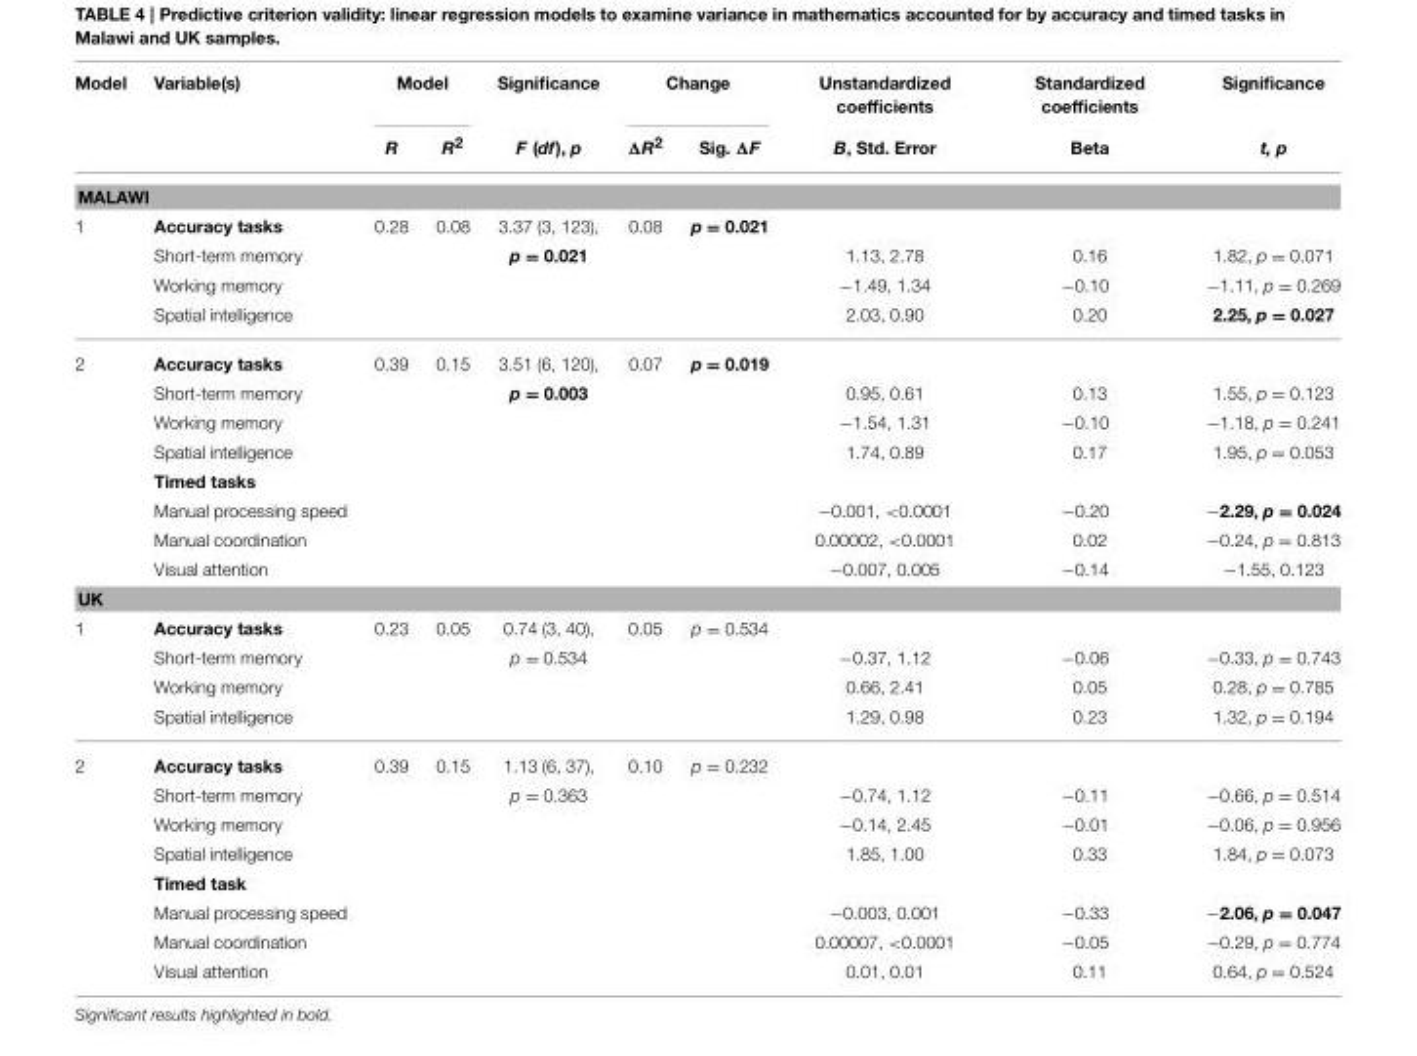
<table><thead><tr><td rowspan="2">Model</td><td rowspan="2">Variable(s)</td><td colspan="2">Model</td><td rowspan="2">Significance F (df), p</td><td colspan="2">Change</td><td rowspan="2">Unstandardized coefficients B, Std. Error</td><td rowspan="2">Standardized coefficients Beta</td><td rowspan="2">Significance t, p</td></tr><tr><td>R</td><td>R<sup>2</sup></td><td>ΔR<sup>2</sup></td><td>Sig. ΔF</td></tr></thead><tbody><tr><td colspan="10">MALAWI</td></tr><tr><td rowspan="4">1</td><td>Accuracy tasks</td><td>0.28</td><td>0.08</td><td>3.37 (3, 123),</td><td>0.08</td><td>p = 0.021</td><td></td><td></td><td></td></tr><tr><td>Short-term memory</td><td></td><td></td><td>p = 0.021</td><td></td><td></td><td>1.13, 2.78</td><td>0.16</td><td>1.82, p = 0.071</td></tr><tr><td>Working memory</td><td></td><td></td><td></td><td></td><td></td><td>−1.49, 1.34</td><td>−0.10</td><td>−1.11, p = 0.269</td></tr><tr><td>Spatial intelligence</td><td></td><td></td><td></td><td></td><td></td><td>2.03, 0.90</td><td>0.20</td><td>2.25, p = 0.027</td></tr><tr><td rowspan="8">2</td><td>Accuracy tasks</td><td>0.39</td><td>0.15</td><td>3.51 (6, 120),</td><td>0.07</td><td>p = 0.019</td><td></td><td></td><td></td></tr><tr><td>Short-term memory</td><td></td><td></td><td>p = 0.003</td><td></td><td></td><td>0.95, 0.61</td><td>0.13</td><td>1.55, p = 0.123</td></tr><tr><td>Working memory</td><td></td><td></td><td></td><td></td><td></td><td>−1.54, 1.31</td><td>−0.10</td><td>−1.18, p = 0.241</td></tr><tr><td>Spatial intelligence</td><td></td><td></td><td></td><td></td><td></td><td>1.74, 0.89</td><td>0.17</td><td>1.95, p = 0.053</td></tr><tr><td>Timed tasks</td><td></td><td></td><td></td><td></td><td></td><td></td><td></td><td></td></tr><tr><td>Manual processing speed</td><td></td><td></td><td></td><td></td><td></td><td>−0.001, &lt;0.0001</td><td>−0.20</td><td>−2.29, p = 0.024</td></tr><tr><td>Manual coordination</td><td></td><td></td><td></td><td></td><td></td><td>0.00002, &lt;0.0001</td><td>0.02</td><td>−0.24, p = 0.813</td></tr><tr><td>Visual attention</td><td></td><td></td><td></td><td></td><td></td><td>−0.007, 0.005</td><td>−0.14</td><td>−1.55, 0.123</td></tr><tr><td colspan="10">UK</td></tr><tr><td rowspan="4">1</td><td>Accuracy tasks</td><td>0.23</td><td>0.05</td><td>0.74 (3, 40),</td><td>0.05</td><td>p = 0.534</td><td></td><td></td><td></td></tr><tr><td>Short-term memory</td><td></td><td></td><td>p = 0.534</td><td></td><td></td><td>−0.37, 1.12</td><td>−0.06</td><td>−0.33, p = 0.743</td></tr><tr><td>Working memory</td><td></td><td></td><td></td><td></td><td></td><td>0.66, 2.41</td><td>0.05</td><td>0.28, p = 0.785</td></tr><tr><td>Spatial intelligence</td><td></td><td></td><td></td><td></td><td></td><td>1.29, 0.98</td><td>0.23</td><td>1.32, p = 0.194</td></tr><tr><td rowspan="8">2</td><td>Accuracy tasks</td><td>0.39</td><td>0.15</td><td>1.13 (6, 37),</td><td>0.10</td><td>p = 0.232</td><td></td><td></td><td></td></tr><tr><td>Short-term memory</td><td></td><td></td><td>p = 0.363</td><td></td><td></td><td>−0.74, 1.12</td><td>−0.11</td><td>−0.66, p = 0.514</td></tr><tr><td>Working memory</td><td></td><td></td><td></td><td></td><td></td><td>−0.14, 2.45</td><td>−0.01</td><td>−0.06, p = 0.956</td></tr><tr><td>Spatial intelligence</td><td></td><td></td><td></td><td></td><td></td><td>1.85, 1.00</td><td>0.33</td><td>1.84, p = 0.073</td></tr><tr><td>Timed task</td><td></td><td></td><td></td><td></td><td></td><td></td><td></td><td></td></tr><tr><td>Manual processing speed</td><td></td><td></td><td></td><td></td><td></td><td>−0.003, 0.001</td><td>−0.33</td><td>−2.06, p = 0.047</td></tr><tr><td>Manual coordination</td><td></td><td></td><td></td><td></td><td></td><td>0.00007, &lt;0.0001</td><td>−0.05</td><td>−0.29, p = 0.774</td></tr><tr><td>Visual attention</td><td></td><td></td><td></td><td></td><td></td><td>0.01, 0.01</td><td>0.11</td><td>0.64, p = 0.524</td></tr></tbody></table>